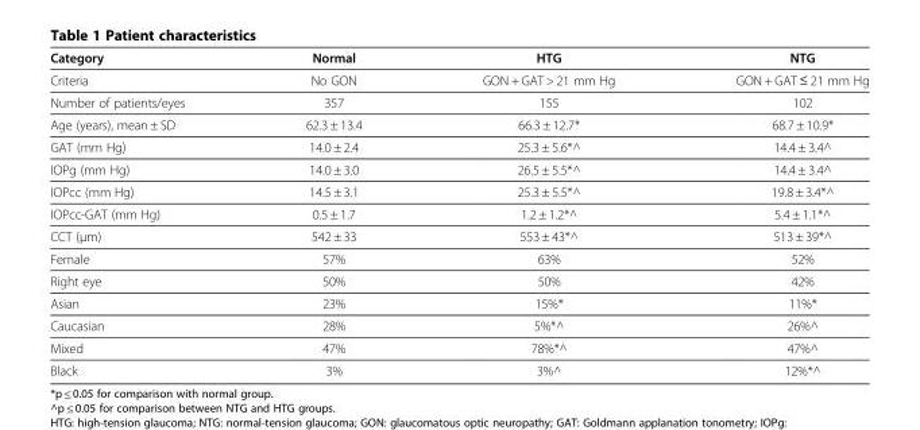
<table><thead><tr><td>Category</td><td>Normal</td><td>HTG</td><td>NTG</td></tr></thead><tbody><tr><td>Criteria</td><td>No GON</td><td>GON + GAT &gt; 21 mm Hg</td><td>GON + GAT ≤ 21 mm Hg</td></tr><tr><td>Number of patients/eyes</td><td>357</td><td>155</td><td>102</td></tr><tr><td>Age (years), mean ± SD</td><td>62.3 ± 13.4</td><td>66.3 ± 12.7*</td><td>68.7 ± 10.9*</td></tr><tr><td>GAT (mm Hg)</td><td>14.0 ± 2.4</td><td>25.3 ± 5.6*^</td><td>14.4 ± 3.4^</td></tr><tr><td>IOPg (mm Hg)</td><td>14.0 ± 3.0</td><td>26.5 ± 5.5*^</td><td>14.4 ± 3.4^</td></tr><tr><td>IOPcc (mm Hg)</td><td>14.5 ± 3.1</td><td>25.3 ± 5.5*^</td><td>19.8 ± 3.4*^</td></tr><tr><td>IOPcc-GAT (mm Hg)</td><td>0.5 ± 1.7</td><td>1.2 ± 1.2*^</td><td>5.4 ± 1.1*^</td></tr><tr><td>CCT (μm)</td><td>542 ± 33</td><td>553 ± 43*^</td><td>513 ± 39*^</td></tr><tr><td>Female</td><td>57%</td><td>63%</td><td>52%</td></tr><tr><td>Right eye</td><td>50%</td><td>50%</td><td>42%</td></tr><tr><td>Asian</td><td>23%</td><td>15%*</td><td>11%*</td></tr><tr><td>Caucasian</td><td>28%</td><td>5%*^</td><td>26%^</td></tr><tr><td>Mixed</td><td>47%</td><td>78%*^</td><td>47%^</td></tr><tr><td>Black</td><td>3%</td><td>3%^</td><td>12%*^</td></tr></tbody></table>